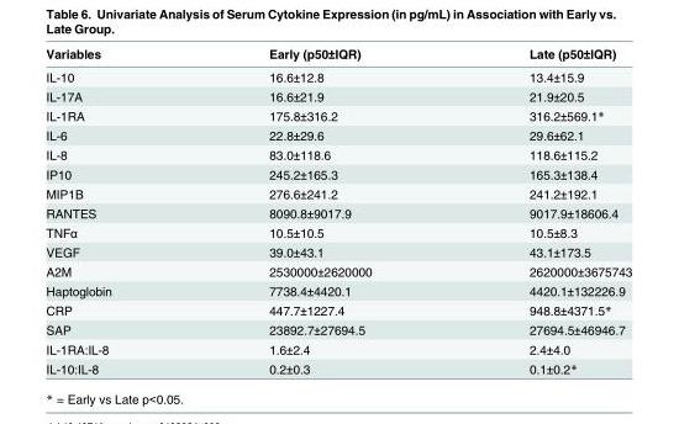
<table><thead><tr><td>Variables</td><td>Early (p50±IQR)</td><td>Late (p50±IQR)</td></tr></thead><tbody><tr><td>IL-10</td><td>16.6±12.8</td><td>13.4±15.9</td></tr><tr><td>IL-17A</td><td>16.6±21.9</td><td>21.9±20.5</td></tr><tr><td>IL-1RA</td><td>175.8±316.2</td><td>316.2±569.1*</td></tr><tr><td>IL-6</td><td>22.8±29.6</td><td>29.6±62.1</td></tr><tr><td>IL-8</td><td>83.0±118.6</td><td>118.6±115.2</td></tr><tr><td>IP10</td><td>245.2±165.3</td><td>165.3±138.4</td></tr><tr><td>MIP1B</td><td>276.6±241.2</td><td>241.2±192.1</td></tr><tr><td>RANTES</td><td>8090.8±9017.9</td><td>9017.9±18606.4</td></tr><tr><td>TNFα</td><td>10.5±10.5</td><td>10.5±8.3</td></tr><tr><td>VEGF</td><td>39.0±43.1</td><td>43.1±173.5</td></tr><tr><td>A2M</td><td>2530000±2620000</td><td>2620000±3675743</td></tr><tr><td>Haptoglobin</td><td>7738.4±4420.1</td><td>4420.1±132226.9</td></tr><tr><td>CRP</td><td>447.7±1227.4</td><td>948.8±4371.5*</td></tr><tr><td>SAP</td><td>23892.7±27694.5</td><td>27694.5±46946.7</td></tr><tr><td>IL-1RA:IL-8</td><td>1.6±2.4</td><td>2.4±4.0</td></tr><tr><td>IL-10:IL-8</td><td>0.2±0.3</td><td>0.1±0.2*</td></tr></tbody></table>